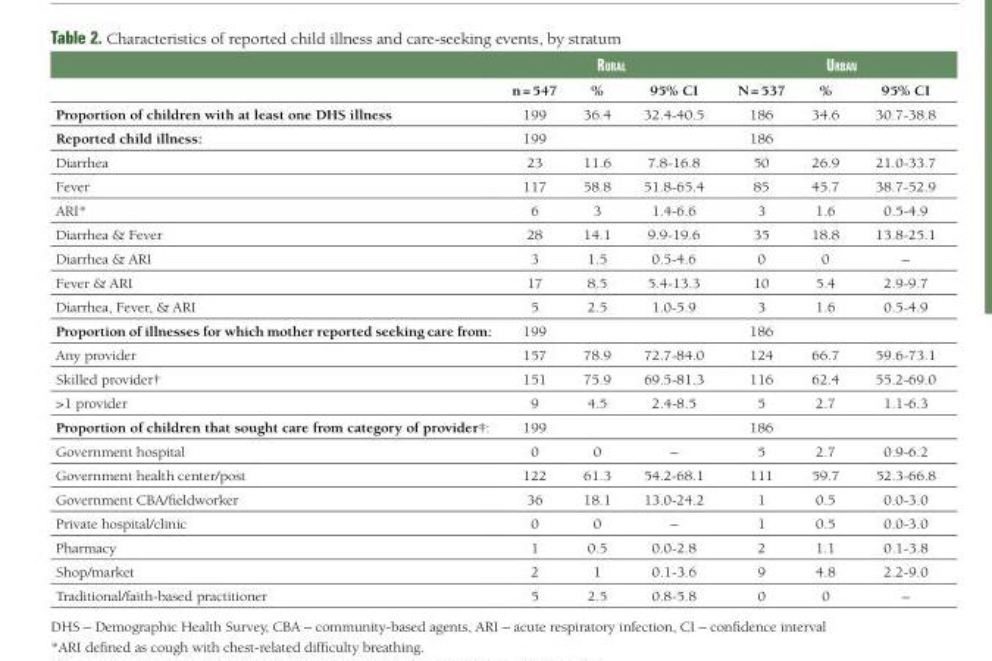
<table><thead><tr><td rowspan="2"></td><td colspan="3">ruraL</td><td colspan="3">urban</td></tr><tr><td>n = 547</td><td>%</td><td>95% CI</td><td>N = 537</td><td>%</td><td>95% CI</td></tr></thead><tbody><tr><td>Proportion of children with at least one DHS illness</td><td>199</td><td>36.4</td><td>32.4-40.5</td><td>186</td><td>34.6</td><td>30.7-38.8</td></tr><tr><td>Reported child illness:</td><td>199</td><td></td><td></td><td>186</td><td></td><td></td></tr><tr><td>Diarrhea</td><td>23</td><td>11.6</td><td>7.8-16.8</td><td>50</td><td>26.9</td><td>21.0-33.7</td></tr><tr><td>Fever</td><td>117</td><td>58.8</td><td>51.8-65.4</td><td>85</td><td>45.7</td><td>38.7-52.9</td></tr><tr><td>ARI*</td><td>6</td><td>3</td><td>1.4-6.6</td><td>3</td><td>1.6</td><td>0.5-4.9</td></tr><tr><td>Diarrhea &amp; Fever</td><td>28</td><td>14.1</td><td>9.9-19.6</td><td>35</td><td>18.8</td><td>13.8-25.1</td></tr><tr><td>Diarrhea &amp; ARI</td><td>3</td><td>1.5</td><td>0.5-4.6</td><td>0</td><td>0</td><td>–</td></tr><tr><td>Fever &amp; ARI</td><td>17</td><td>8.5</td><td>5.4-13.3</td><td>10</td><td>5.4</td><td>2.9-9.7</td></tr><tr><td>Diarrhea, Fever, &amp; ARI</td><td>5</td><td>2.5</td><td>1.0-5.9</td><td>3</td><td>1.6</td><td>0.5-4.9</td></tr><tr><td>Proportion of illnesses for which mother reported seeking care from:</td><td>199</td><td></td><td></td><td>186</td><td></td><td></td></tr><tr><td>Any provider</td><td>157</td><td>78.9</td><td>72.7-84.0</td><td>124</td><td>66.7</td><td>59.6-73.1</td></tr><tr><td>Skilled provider†</td><td>151</td><td>75.9</td><td>69.5-81.3</td><td>116</td><td>62.4</td><td>55.2-69.0</td></tr><tr><td>&gt;1 provider</td><td>9</td><td>4.5</td><td>2.4-8.5</td><td>5</td><td>2.7</td><td>1.1-6.3</td></tr><tr><td>Proportion of children that sought care from category of provider‡:</td><td>199</td><td></td><td></td><td>186</td><td></td><td></td></tr><tr><td>Government hospital</td><td>0</td><td>0</td><td>–</td><td>5</td><td>2.7</td><td>0.9-6.2</td></tr><tr><td>Government health center/post</td><td>122</td><td>61.3</td><td>54.2-68.1</td><td>111</td><td>59.7</td><td>52.3-66.8</td></tr><tr><td>Government CBA/fieldworker</td><td>36</td><td>18.1</td><td>13.0-24.2</td><td>1</td><td>0.5</td><td>0.0-3.0</td></tr><tr><td>Private hospital/clinic</td><td>0</td><td>0</td><td>–</td><td>1</td><td>0.5</td><td>0.0-3.0</td></tr><tr><td>Pharmacy</td><td>1</td><td>0.5</td><td>0.0-2.8</td><td>2</td><td>1.1</td><td>0.1-3.8</td></tr><tr><td>Shop/market</td><td>2</td><td>1</td><td>0.1-3.6</td><td>9</td><td>4.8</td><td>2.2-9.0</td></tr><tr><td>Traditional/faith-based practitioner</td><td>5</td><td>2.5</td><td>0.8-5.8</td><td>0</td><td>0</td><td>–</td></tr></tbody></table>